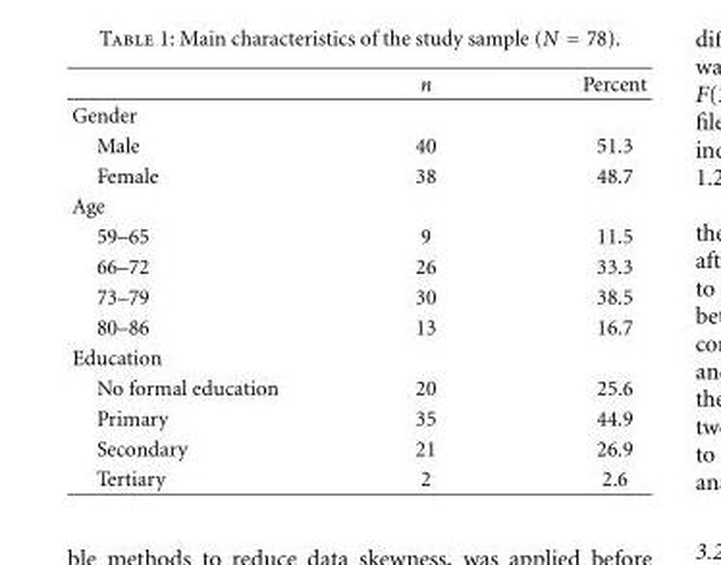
<table><thead><tr><td></td><td>n</td><td>Percent</td></tr></thead><tbody><tr><td colspan="3">Gender</td></tr><tr><td>Male</td><td>40</td><td>51.3</td></tr><tr><td>Female</td><td>38</td><td>48.7</td></tr><tr><td colspan="3">Age</td></tr><tr><td>59–65</td><td>9</td><td>11.5</td></tr><tr><td>66–72</td><td>26</td><td>33.3</td></tr><tr><td>73–79</td><td>30</td><td>38.5</td></tr><tr><td>80–86</td><td>13</td><td>16.7</td></tr><tr><td colspan="3">Education</td></tr><tr><td>No formal education</td><td>20</td><td>25.6</td></tr><tr><td>Primary</td><td>35</td><td>44.9</td></tr><tr><td>Secondary</td><td>21</td><td>26.9</td></tr><tr><td>Tertiary</td><td>2</td><td>2.6</td></tr></tbody></table>